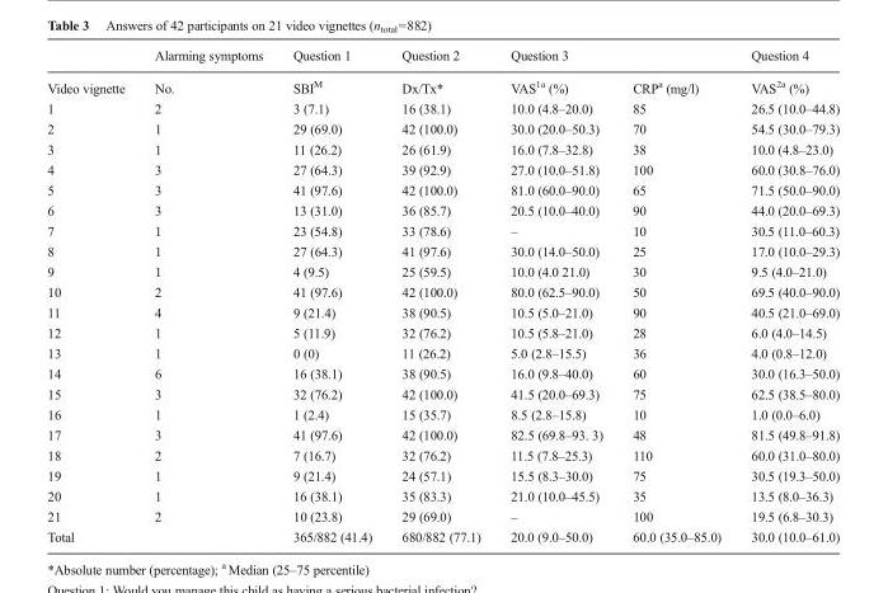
<table><thead><tr><td></td><td>Alarming symptoms</td><td>Question 1</td><td>Question 2</td><td>Question 3</td><td></td><td>Question 4</td></tr></thead><tbody><tr><td>Video vignette</td><td>No.</td><td>SBI<sup>M</sup></td><td>Dx/Tx*</td><td>VAS<sup>1a</sup> (%)</td><td>CRP<sup>a</sup> (mg/l)</td><td>VAS<sup>2a</sup> (%)</td></tr><tr><td>1</td><td>2</td><td>3 (7.1)</td><td>16 (38.1)</td><td>10.0 (4.8–20.0)</td><td>85</td><td>26.5 (10.0–44.8)</td></tr><tr><td>2</td><td>1</td><td>29 (69.0)</td><td>42 (100.0)</td><td>30.0 (20.0–50.3)</td><td>70</td><td>54.5 (30.0–79.3)</td></tr><tr><td>3</td><td>1</td><td>11 (26.2)</td><td>26 (61.9)</td><td>16.0 (7.8–32.8)</td><td>38</td><td>10.0 (4.8–23.0)</td></tr><tr><td>4</td><td>3</td><td>27 (64.3)</td><td>39 (92.9)</td><td>27.0 (10.0–51.8)</td><td>100</td><td>60.0 (30.8–76.0)</td></tr><tr><td>5</td><td>3</td><td>41 (97.6)</td><td>42 (100.0)</td><td>81.0 (60.0–90.0)</td><td>65</td><td>71.5 (50.0–90.0)</td></tr><tr><td>6</td><td>3</td><td>13 (31.0)</td><td>36 (85.7)</td><td>20.5 (10.0–40.0)</td><td>90</td><td>44.0 (20.0–69.3)</td></tr><tr><td>7</td><td>1</td><td>23 (54.8)</td><td>33 (78.6)</td><td>–</td><td>10</td><td>30.5 (11.0–60.3)</td></tr><tr><td>8</td><td>1</td><td>27 (64.3)</td><td>41 (97.6)</td><td>30.0 (14.0–50.0)</td><td>25</td><td>17.0 (10.0–29.3)</td></tr><tr><td>9</td><td>1</td><td>4 (9.5)</td><td>25 (59.5)</td><td>10.0 (4.0 21.0)</td><td>30</td><td>9.5 (4.0–21.0)</td></tr><tr><td>10</td><td>2</td><td>41 (97.6)</td><td>42 (100.0)</td><td>80.0 (62.5–90.0)</td><td>50</td><td>69.5 (40.0–90.0)</td></tr><tr><td>11</td><td>4</td><td>9 (21.4)</td><td>38 (90.5)</td><td>10.5 (5.0–21.0)</td><td>90</td><td>40.5 (21.0–69.0)</td></tr><tr><td>12</td><td>1</td><td>5 (11.9)</td><td>32 (76.2)</td><td>10.5 (5.8–21.0)</td><td>28</td><td>6.0 (4.0–14.5)</td></tr><tr><td>13</td><td>1</td><td>0 (0)</td><td>11 (26.2)</td><td>5.0 (2.8–15.5)</td><td>36</td><td>4.0 (0.8–12.0)</td></tr><tr><td>14</td><td>6</td><td>16 (38.1)</td><td>38 (90.5)</td><td>16.0 (9.8–40.0)</td><td>60</td><td>30.0 (16.3–50.0)</td></tr><tr><td>15</td><td>3</td><td>32 (76.2)</td><td>42 (100.0)</td><td>41.5 (20.0–69.3)</td><td>75</td><td>62.5 (38.5–80.0)</td></tr><tr><td>16</td><td>1</td><td>1 (2.4)</td><td>15 (35.7)</td><td>8.5 (2.8–15.8)</td><td>10</td><td>1.0 (0.0–6.0)</td></tr><tr><td>17</td><td>3</td><td>41 (97.6)</td><td>42 (100.0)</td><td>82.5 (69.8–93. 3)</td><td>48</td><td>81.5 (49.8–91.8)</td></tr><tr><td>18</td><td>2</td><td>7 (16.7)</td><td>32 (76.2)</td><td>11.5 (7.8–25.3)</td><td>110</td><td>60.0 (31.0–80.0)</td></tr><tr><td>19</td><td>1</td><td>9 (21.4)</td><td>24 (57.1)</td><td>15.5 (8.3–30.0)</td><td>75</td><td>30.5 (19.3–50.0)</td></tr><tr><td>20</td><td>1</td><td>16 (38.1)</td><td>35 (83.3)</td><td>21.0 (10.0–45.5)</td><td>35</td><td>13.5 (8.0–36.3)</td></tr><tr><td>21</td><td>2</td><td>10 (23.8)</td><td>29 (69.0)</td><td>–</td><td>100</td><td>19.5 (6.8–30.3)</td></tr><tr><td>Total</td><td></td><td>365/882 (41.4)</td><td>680/882 (77.1)</td><td>20.0 (9.0–50.0)</td><td>60.0 (35.0–85.0)</td><td>30.0 (10.0–61.0)</td></tr></tbody></table>